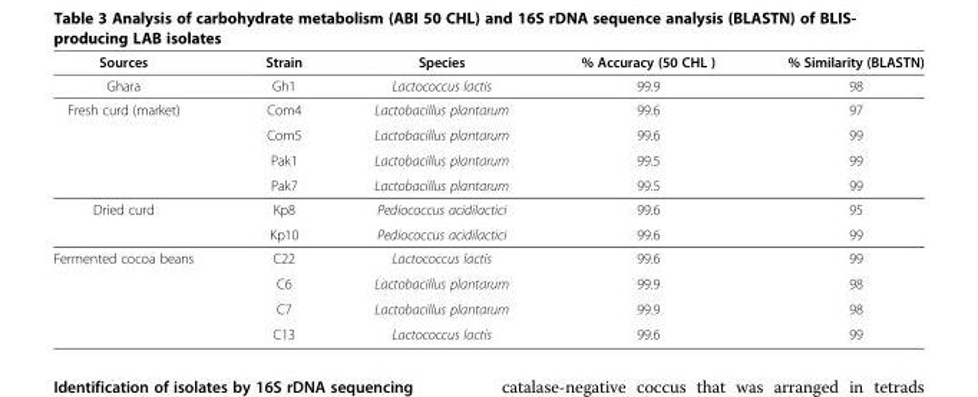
<table><thead><tr><td>Sources</td><td>Strain</td><td>Species</td><td>% Accuracy (50 CHL )</td><td>% Similarity (BLASTN)</td></tr></thead><tbody><tr><td>Ghara</td><td>Gh1</td><td>Lactococcus lactis</td><td>99.9</td><td>98</td></tr><tr><td rowspan="4">Fresh curd (market)</td><td>Com4</td><td>Lactobacillus plantarum</td><td>99.6</td><td>97</td></tr><tr><td>Com5</td><td>Lactobacillus plantarum</td><td>99.6</td><td>99</td></tr><tr><td>Pak1</td><td>Lactobacillus plantarum</td><td>99.5</td><td>99</td></tr><tr><td>Pak7</td><td>Lactobacillus plantarum</td><td>99.5</td><td>99</td></tr><tr><td rowspan="2">Dried curd</td><td>Kp8</td><td>Pediococcus acidilactici</td><td>99.6</td><td>95</td></tr><tr><td>Kp10</td><td>Pediococcus acidilactici</td><td>99.6</td><td>99</td></tr><tr><td rowspan="4">Fermented cocoa beans</td><td>C22</td><td>Lactococcus lactis</td><td>99.6</td><td>99</td></tr><tr><td>C6</td><td>Lactobacillus plantarum</td><td>99.9</td><td>98</td></tr><tr><td>C7</td><td>Lactobacillus plantarum</td><td>99.9</td><td>98</td></tr><tr><td>C13</td><td>Lactococcus lactis</td><td>99.6</td><td>99</td></tr></tbody></table>